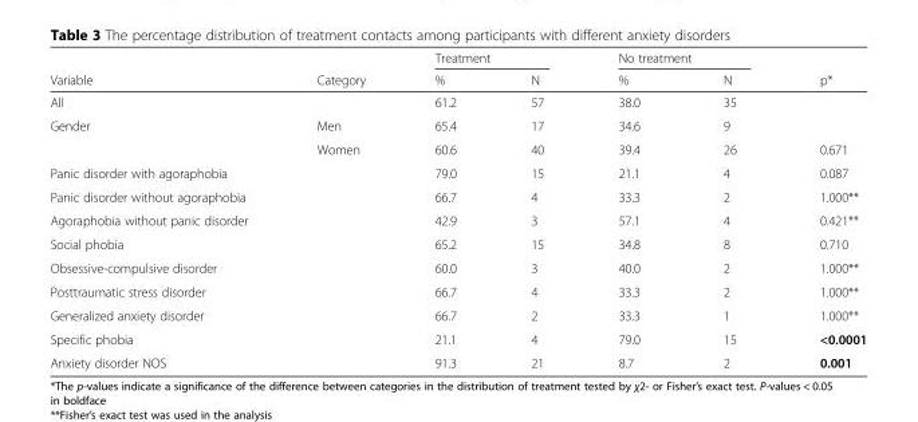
<table><thead><tr><td rowspan="2">Variable</td><td rowspan="2">Category</td><td colspan="2">Treatment</td><td colspan="2">No treatment</td><td rowspan="2">p*</td></tr><tr><td>%</td><td>N</td><td>%</td><td>N</td></tr></thead><tbody><tr><td>All</td><td></td><td>61.2</td><td>57</td><td>38.0</td><td>35</td><td></td></tr><tr><td rowspan="2">Gender</td><td>Men</td><td>65.4</td><td>17</td><td>34.6</td><td>9</td><td></td></tr><tr><td>Women</td><td>60.6</td><td>40</td><td>39.4</td><td>26</td><td>0.671</td></tr><tr><td>Panic disorder with agoraphobia</td><td></td><td>79.0</td><td>15</td><td>21.1</td><td>4</td><td>0.087</td></tr><tr><td>Panic disorder without agoraphobia</td><td></td><td>66.7</td><td>4</td><td>33.3</td><td>2</td><td>1.000**</td></tr><tr><td>Agoraphobia without panic disorder</td><td></td><td>42.9</td><td>3</td><td>57.1</td><td>4</td><td>0.421**</td></tr><tr><td>Social phobia</td><td></td><td>65.2</td><td>15</td><td>34.8</td><td>8</td><td>0.710</td></tr><tr><td>Obsessive-compulsive disorder</td><td></td><td>60.0</td><td>3</td><td>40.0</td><td>2</td><td>1.000**</td></tr><tr><td>Posttraumatic stress disorder</td><td></td><td>66.7</td><td>4</td><td>33.3</td><td>2</td><td>1.000**</td></tr><tr><td>Generalized anxiety disorder</td><td></td><td>66.7</td><td>2</td><td>33.3</td><td>1</td><td>1.000**</td></tr><tr><td>Specific phobia</td><td></td><td>21.1</td><td>4</td><td>79.0</td><td>15</td><td>&lt;0.0001</td></tr><tr><td>Anxiety disorder NOS</td><td></td><td>91.3</td><td>21</td><td>8.7</td><td>2</td><td>0.001</td></tr></tbody></table>